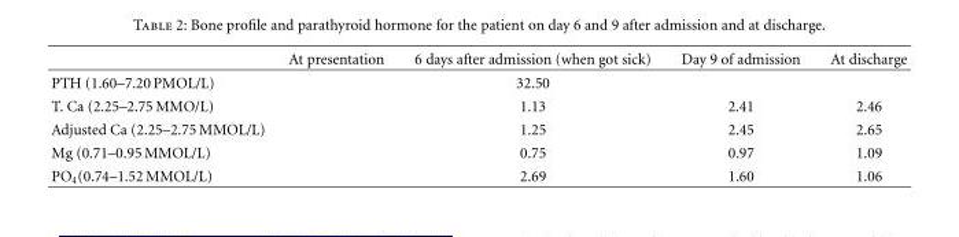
<table><thead><tr><td></td><td>At presentation</td><td>6 days after admission (when got sick)</td><td>Day 9 of admission</td><td>At discharge</td></tr></thead><tbody><tr><td>PTH (1.60–7.20 PMOL/L)</td><td></td><td>32.50</td><td></td><td></td></tr><tr><td>T. Ca (2.25–2.75 MMO/L)</td><td></td><td>1.13</td><td>2.41</td><td>2.46</td></tr><tr><td>Adjusted Ca (2.25–2.75 MMOL/L)</td><td></td><td>1.25</td><td>2.45</td><td>2.65</td></tr><tr><td>Mg (0.71–0.95 MMOL/L)</td><td></td><td>0.75</td><td>0.97</td><td>1.09</td></tr><tr><td>PO<sub>4</sub>(0.74–1.52 MMOL/L)</td><td></td><td>2.69</td><td>1.60</td><td>1.06</td></tr></tbody></table>